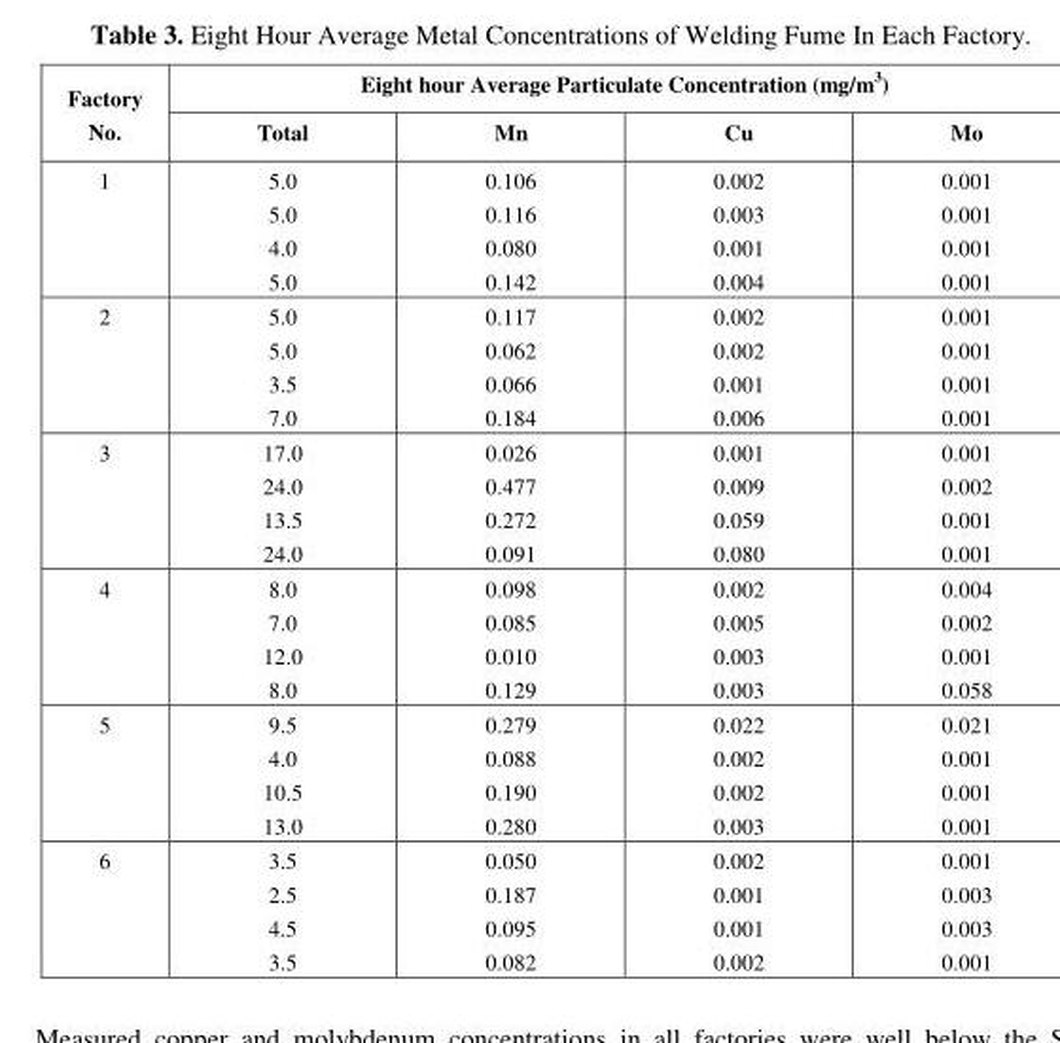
<table><thead><tr><td rowspan="2">Factory No.</td><td colspan="4">Eight hour Average Particulate Concentration (mg/m<sup>3</sup>)</td></tr><tr><td>Total</td><td>Mn</td><td>Cu</td><td>Mo</td></tr></thead><tbody><tr><td>1</td><td>5.0 5.0 4.0 5.0</td><td>0.106 0.116 0.080 0.142</td><td>0.002 0.003 0.001 0.004</td><td>0.001 0.001 0.001 0.001</td></tr><tr><td>2</td><td>5.0 5.0 3.5 7.0</td><td>0.117 0.062 0.066 0.184</td><td>0.002 0.002 0.001 0.006</td><td>0.001 0.001 0.001 0.001</td></tr><tr><td>3</td><td>17.0 24.0 13.5 24.0</td><td>0.026 0.477 0.272 0.091</td><td>0.001 0.009 0.059 0.080</td><td>0.001 0.002 0.001 0.001</td></tr><tr><td>4</td><td>8.0 7.0 12.0 8.0</td><td>0.098 0.085 0.010 0.129</td><td>0.002 0.005 0.003 0.003</td><td>0.004 0.002 0.001 0.058</td></tr><tr><td>5</td><td>9.5 4.0 10.5 13.0</td><td>0.279 0.088 0.190 0.280</td><td>0.022 0.002 0.002 0.003</td><td>0.021 0.001 0.001 0.001</td></tr><tr><td>6</td><td>3.5 2.5 4.5 3.5</td><td>0.050 0.187 0.095 0.082</td><td>0.002 0.001 0.001 0.002</td><td>0.001 0.003 0.003 0.001</td></tr></tbody></table>